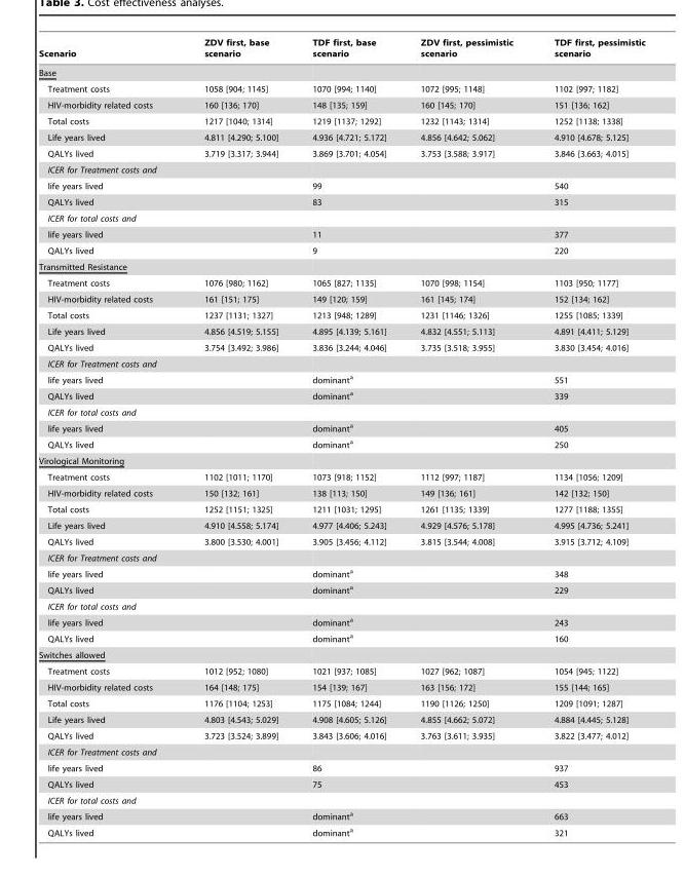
<table><thead><tr><td>Scenario</td><td>ZDV first, base scenario</td><td>TDF first, base scenario</td><td>ZDV first, pessimistic scenario</td><td>TDF first, pessimistic scenario</td></tr></thead><tbody><tr><td colspan="5">Base</td></tr><tr><td>Treatment costs</td><td>1058 [904; 1145]</td><td>1070 [994; 1140]</td><td>1072 [995; 1148]</td><td>1102 [997; 1182]</td></tr><tr><td>HIV-morbidity related costs</td><td>160 [136; 170]</td><td>148 [135; 159]</td><td>160 [145; 170]</td><td>151 [136; 162]</td></tr><tr><td>Total costs</td><td>1217 [1040; 1314]</td><td>1219 [1137; 1292]</td><td>1232 [1143; 1314]</td><td>1252 [1138; 1338]</td></tr><tr><td>Life years lived</td><td>4.811 [4.290; 5.100]</td><td>4.936 [4.721; 5.172]</td><td>4.856 [4.642; 5.062]</td><td>4.910 [4.678; 5.125]</td></tr><tr><td>QALYs lived</td><td>3.719 [3.317; 3.944]</td><td>3.869 [3.701; 4.054]</td><td>3.753 [3.588; 3.917]</td><td>3.846 [3.663; 4.015]</td></tr><tr><td colspan="5">ICER for Treatment costs and</td></tr><tr><td>life years lived</td><td></td><td>99</td><td></td><td>540</td></tr><tr><td>QALYs lived</td><td></td><td>83</td><td></td><td>315</td></tr><tr><td colspan="5">ICER for total costs and</td></tr><tr><td>life years lived</td><td></td><td>11</td><td></td><td>377</td></tr><tr><td>QALYs lived</td><td></td><td>9</td><td></td><td>220</td></tr><tr><td colspan="5">Transmitted Resistance</td></tr><tr><td>Treatment costs</td><td>1076 [980; 1162]</td><td>1065 [827; 1135]</td><td>1070 [998; 1154]</td><td>1103 [950; 1177]</td></tr><tr><td>HIV-morbidity related costs</td><td>161 [151; 175]</td><td>149 [120; 159]</td><td>161 [145; 174]</td><td>152 [134; 162]</td></tr><tr><td>Total costs</td><td>1237 [1131; 1327]</td><td>1213 [948; 1289]</td><td>1231 [1146; 1326]</td><td>1255 [1085; 1339]</td></tr><tr><td>Life years lived</td><td>4.856 [4.519; 5.155]</td><td>4.895 [4.139; 5.161]</td><td>4.832 [4.551; 5.113]</td><td>4.891 [4.411; 5.129]</td></tr><tr><td>QALYs lived</td><td>3.754 [3.492; 3.986]</td><td>3.836 [3.244; 4.046]</td><td>3.735 [3.518; 3.955]</td><td>3.830 [3.454; 4.016]</td></tr><tr><td colspan="5">ICER for Treatment costs and</td></tr><tr><td>life years lived</td><td></td><td>dominant<sup>a</sup></td><td></td><td>551</td></tr><tr><td>QALYs lived</td><td></td><td>dominant<sup>a</sup></td><td></td><td>339</td></tr><tr><td colspan="5">ICER for total costs and</td></tr><tr><td>life years lived</td><td></td><td>dominant<sup>a</sup></td><td></td><td>405</td></tr><tr><td>QALYs lived</td><td></td><td>dominant<sup>a</sup></td><td></td><td>250</td></tr><tr><td colspan="5">Virological Monitoring</td></tr><tr><td>Treatment costs</td><td>1102 [1011; 1170]</td><td>1073 [918; 1152]</td><td>1112 [997; 1187]</td><td>1134 [1056; 1209]</td></tr><tr><td>HIV-morbidity related costs</td><td>150 [132; 161]</td><td>138 [113; 150]</td><td>149 [136; 161]</td><td>142 [132; 150]</td></tr><tr><td>Total costs</td><td>1252 [1151; 1325]</td><td>1211 [1031; 1295]</td><td>1261 [1135; 1339]</td><td>1277 [1188; 1355]</td></tr><tr><td>Life years lived</td><td>4.910 [4.558; 5.174]</td><td>4.977 [4.406; 5.243]</td><td>4.929 [4.576; 5.178]</td><td>4.995 [4.736; 5.241]</td></tr><tr><td>QALYs lived</td><td>3.800 [3.530; 4.001]</td><td>3.905 [3.456; 4.112]</td><td>3.815 [3.544; 4.008]</td><td>3.915 [3.712; 4.109]</td></tr><tr><td colspan="5">ICER for Treatment costs and</td></tr><tr><td>life years lived</td><td></td><td>dominant<sup>a</sup></td><td></td><td>348</td></tr><tr><td>QALYs lived</td><td></td><td>dominant<sup>a</sup></td><td></td><td>229</td></tr><tr><td colspan="5">ICER for total costs and</td></tr><tr><td>life years lived</td><td></td><td>dominant<sup>a</sup></td><td></td><td>243</td></tr><tr><td>QALYs lived</td><td></td><td>dominant<sup>a</sup></td><td></td><td>160</td></tr><tr><td colspan="5">Switches allowed</td></tr><tr><td>Treatment costs</td><td>1012 [952; 1080]</td><td>1021 [937; 1085]</td><td>1027 [962; 1087]</td><td>1054 [945; 1122]</td></tr><tr><td>HIV-morbidity related costs</td><td>164 [148; 175]</td><td>154 [139; 167]</td><td>163 [156; 172]</td><td>155 [144; 165]</td></tr><tr><td>Total costs</td><td>1176 [1104; 1253]</td><td>1175 [1084; 1244]</td><td>1190 [1126; 1250]</td><td>1209 [1091; 1287]</td></tr><tr><td>Life years lived</td><td>4.803 [4.543; 5.029]</td><td>4.908 [4.605; 5.126]</td><td>4.855 [4.662; 5.072]</td><td>4.884 [4.445; 5.128]</td></tr><tr><td>QALYs lived</td><td>3.723 [3.524; 3.899]</td><td>3.843 [3.606; 4.016]</td><td>3.763 [3.611; 3.935]</td><td>3.822 [3.477; 4.012]</td></tr><tr><td colspan="5">ICER for Treatment costs and</td></tr><tr><td>life years lived</td><td></td><td>86</td><td></td><td>937</td></tr><tr><td>QALYs lived</td><td></td><td>75</td><td></td><td>453</td></tr><tr><td colspan="5">ICER for total costs and</td></tr><tr><td>life years lived</td><td></td><td>dominant<sup>a</sup></td><td></td><td>663</td></tr><tr><td>QALYs lived</td><td></td><td>dominant<sup>a</sup></td><td></td><td>321</td></tr></tbody></table>